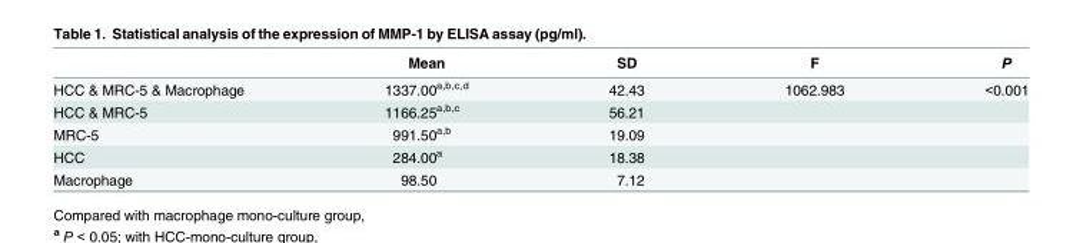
<table><thead><tr><td></td><td>Mean</td><td>SD</td><td>F</td><td>P</td></tr></thead><tbody><tr><td>HCC &amp; MRC-5 &amp; Macrophage</td><td>1337.00<sup>a,b,c,d</sup></td><td>42.43</td><td>1062.983</td><td>&lt;0.001</td></tr><tr><td>HCC &amp; MRC-5</td><td>1166.25<sup>a,b,c</sup></td><td>56.21</td><td></td><td></td></tr><tr><td>MRC-5</td><td>991.50<sup>a,b</sup></td><td>19.09</td><td></td><td></td></tr><tr><td>HCC</td><td>284.00<sup>a</sup></td><td>18.38</td><td></td><td></td></tr><tr><td>Macrophage</td><td>98.50</td><td>7.12</td><td></td><td></td></tr></tbody></table>